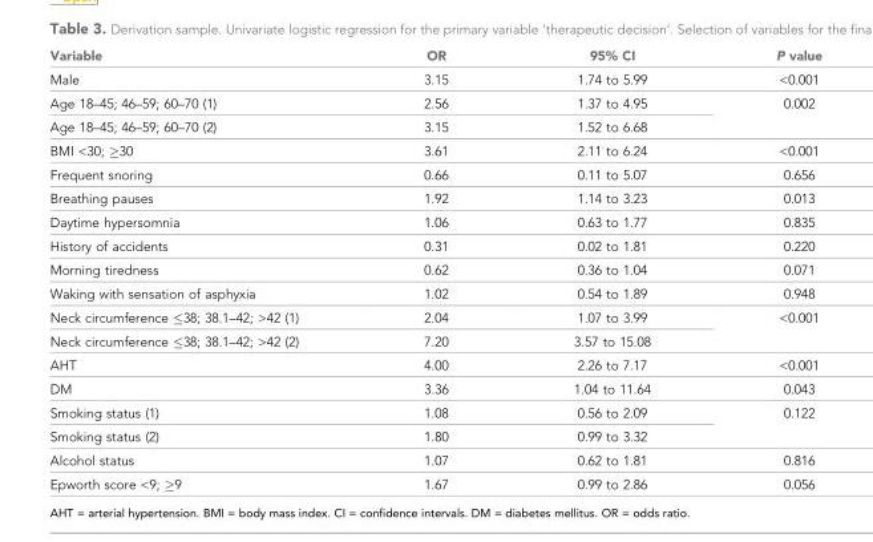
<table><thead><tr><td>Variable</td><td>OR</td><td>95% CI</td><td>P value</td></tr></thead><tbody><tr><td>Male</td><td>3.15</td><td>1.74 to 5.99</td><td>&lt;0.001</td></tr><tr><td>Age 18–45; 46–59; 60–70 (1)</td><td>2.56</td><td>1.37 to 4.95</td><td rowspan="2">0.002</td></tr><tr><td>Age 18–45; 46–59; 60–70 (2)</td><td>3.15</td><td>1.52 to 6.68</td></tr><tr><td>BMI &lt;30; ≥30</td><td>3.61</td><td>2.11 to 6.24</td><td>&lt;0.001</td></tr><tr><td>Frequent snoring</td><td>0.66</td><td>0.11 to 5.07</td><td>0.656</td></tr><tr><td>Breathing pauses</td><td>1.92</td><td>1.14 to 3.23</td><td>0.013</td></tr><tr><td>Daytime hypersomnia</td><td>1.06</td><td>0.63 to 1.77</td><td>0.835</td></tr><tr><td>History of accidents</td><td>0.31</td><td>0.02 to 1.81</td><td>0.220</td></tr><tr><td>Morning tiredness</td><td>0.62</td><td>0.36 to 1.04</td><td>0.071</td></tr><tr><td>Waking with sensation of asphyxia</td><td>1.02</td><td>0.54 to 1.89</td><td>0.948</td></tr><tr><td>Neck circumference ≤38; 38.1–42; &gt;42 (1)</td><td>2.04</td><td>1.07 to 3.99</td><td rowspan="2">&lt;0.001</td></tr><tr><td>Neck circumference ≤38; 38.1–42; &gt;42 (2)</td><td>7.20</td><td>3.57 to 15.08</td></tr><tr><td>AHT</td><td>4.00</td><td>2.26 to 7.17</td><td>&lt;0.001</td></tr><tr><td>DM</td><td>3.36</td><td>1.04 to 11.64</td><td>0.043</td></tr><tr><td>Smoking status (1)</td><td>1.08</td><td>0.56 to 2.09</td><td rowspan="2">0.122</td></tr><tr><td>Smoking status (2)</td><td>1.80</td><td>0.99 to 3.32</td></tr><tr><td>Alcohol status</td><td>1.07</td><td>0.62 to 1.81</td><td>0.816</td></tr><tr><td>Epworth score &lt;9; ≥9</td><td>1.67</td><td>0.99 to 2.86</td><td>0.056</td></tr></tbody></table>